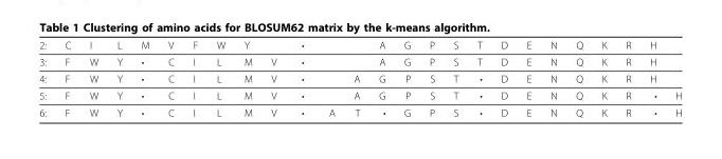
<table><thead><tr><td>2:</td><td>C</td><td>I</td><td>L</td><td>M</td><td>V</td><td>F</td><td>W</td><td>Y</td><td></td><td>•</td><td></td><td></td><td>A</td><td>G</td><td>P</td><td>S</td><td>T</td><td>D</td><td>E</td><td>N</td><td>Q</td><td>K</td><td>R</td><td>H</td><td></td></tr></thead><tbody><tr><td>3:</td><td>F</td><td>W</td><td>Y</td><td>•</td><td>C</td><td>I</td><td>L</td><td>M</td><td>V</td><td>•</td><td></td><td></td><td>A</td><td>G</td><td>P</td><td>S</td><td>T</td><td>D</td><td>E</td><td>N</td><td>Q</td><td>K</td><td>R</td><td>H</td><td></td></tr><tr><td>4:</td><td>F</td><td>W</td><td>Y</td><td>•</td><td>C</td><td>I</td><td>L</td><td>M</td><td>V</td><td>•</td><td></td><td>A</td><td>G</td><td>P</td><td>S</td><td>T</td><td>•</td><td>D</td><td>E</td><td>N</td><td>Q</td><td>K</td><td>R</td><td>H</td><td></td></tr><tr><td>5:</td><td>F</td><td>W</td><td>Y</td><td>•</td><td>C</td><td>I</td><td>L</td><td>M</td><td>V</td><td>•</td><td></td><td>A</td><td>G</td><td>P</td><td>S</td><td>T</td><td>•</td><td>D</td><td>E</td><td>N</td><td>Q</td><td>K</td><td>R</td><td>•</td><td>H</td></tr><tr><td>6:</td><td>F</td><td>W</td><td>Y</td><td>•</td><td>C</td><td>I</td><td>L</td><td>M</td><td>V</td><td>•</td><td>A</td><td>T</td><td>•</td><td>G</td><td>P</td><td>S</td><td>•</td><td>D</td><td>E</td><td>N</td><td>Q</td><td>K</td><td>R</td><td>•</td><td>H</td></tr></tbody></table>